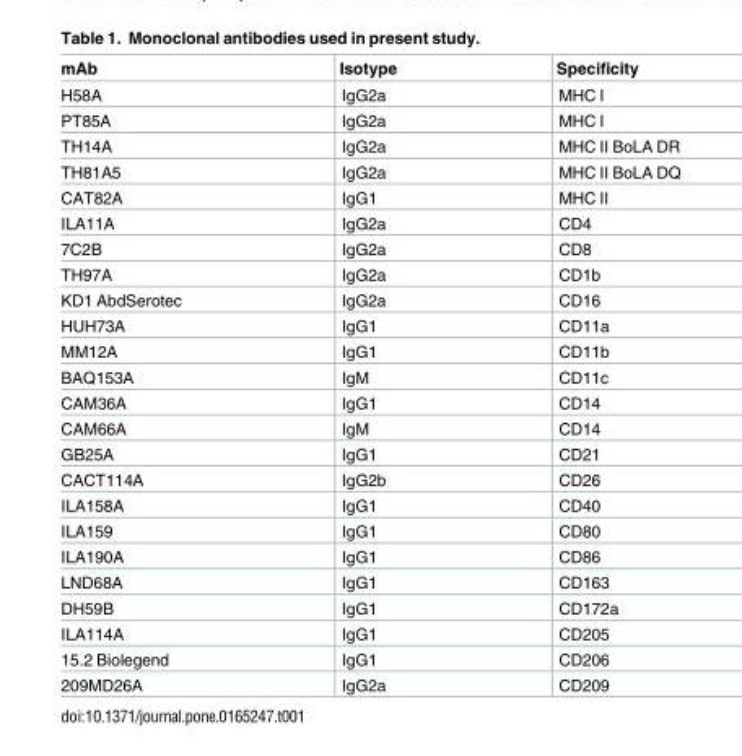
<table><thead><tr><td>mAb</td><td>Isotype</td><td>Specificity</td></tr></thead><tbody><tr><td>H58A</td><td>IgG2a</td><td>MHC I</td></tr><tr><td>PT85A</td><td>IgG2a</td><td>MHC I</td></tr><tr><td>TH14A</td><td>IgG2a</td><td>MHC II BoLA DR</td></tr><tr><td>TH81A5</td><td>IgG2a</td><td>MHC II BoLA DQ</td></tr><tr><td>CAT82A</td><td>IgG1</td><td>MHC II</td></tr><tr><td>ILA11A</td><td>IgG2a</td><td>CD4</td></tr><tr><td>7C2B</td><td>IgG2a</td><td>CD8</td></tr><tr><td>TH97A</td><td>IgG2a</td><td>CD1b</td></tr><tr><td>KD1 AbdSerotec</td><td>IgG2a</td><td>CD16</td></tr><tr><td>HUH73A</td><td>IgG1</td><td>CD11a</td></tr><tr><td>MM12A</td><td>IgG1</td><td>CD11b</td></tr><tr><td>BAQ153A</td><td>IgM</td><td>CD11c</td></tr><tr><td>CAM36A</td><td>IgG1</td><td>CD14</td></tr><tr><td>CAM66A</td><td>IgM</td><td>CD14</td></tr><tr><td>GB25A</td><td>IgG1</td><td>CD21</td></tr><tr><td>CACT114A</td><td>IgG2b</td><td>CD26</td></tr><tr><td>ILA158A</td><td>IgG1</td><td>CD40</td></tr><tr><td>ILA159</td><td>IgG1</td><td>CD80</td></tr><tr><td>ILA190A</td><td>IgG1</td><td>CD86</td></tr><tr><td>LND68A</td><td>IgG1</td><td>CD163</td></tr><tr><td>DH59B</td><td>IgG1</td><td>CD172a</td></tr><tr><td>ILA114A</td><td>IgG1</td><td>CD205</td></tr><tr><td>15.2 Biolegend</td><td>IgG1</td><td>CD206</td></tr><tr><td>209MD26A</td><td>IgG2a</td><td>CD209</td></tr></tbody></table>